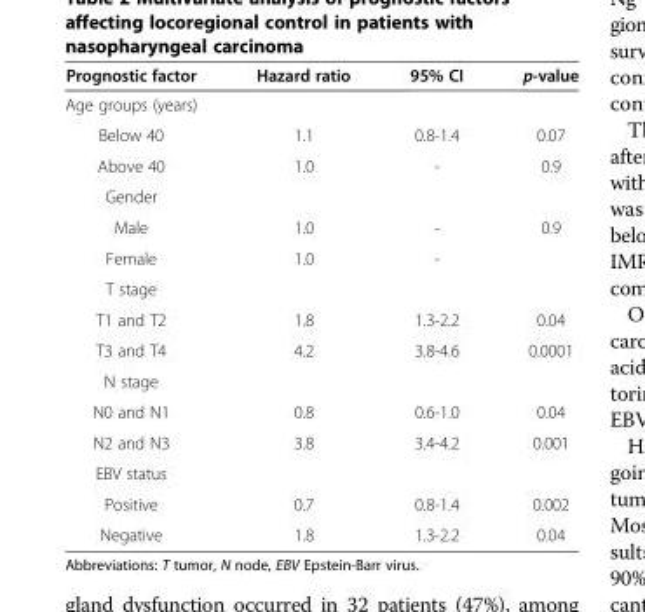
<table><thead><tr><td>Prognostic factor</td><td>Hazard ratio</td><td>95% CI</td><td>p-value</td></tr></thead><tbody><tr><td colspan="4">Age groups (years)</td></tr><tr><td>Below 40</td><td>1.1</td><td>0.8-1.4</td><td>0.07</td></tr><tr><td>Above 40</td><td>1.0</td><td>-</td><td>0.9</td></tr><tr><td colspan="4">Gender</td></tr><tr><td>Male</td><td>1.0</td><td>-</td><td>0.9</td></tr><tr><td>Female</td><td>1.0</td><td>-</td><td></td></tr><tr><td colspan="4">T stage</td></tr><tr><td>T1 and T2</td><td>1.8</td><td>1.3-2.2</td><td>0.04</td></tr><tr><td>T3 and T4</td><td>4.2</td><td>3.8-4.6</td><td>0.0001</td></tr><tr><td colspan="4">N stage</td></tr><tr><td>N0 and N1</td><td>0.8</td><td>0.6-1.0</td><td>0.04</td></tr><tr><td>N2 and N3</td><td>3.8</td><td>3.4-4.2</td><td>0.001</td></tr><tr><td colspan="4">EBV status</td></tr><tr><td>Positive</td><td>0.7</td><td>0.8-1.4</td><td>0.002</td></tr><tr><td>Negative</td><td>1.8</td><td>1.3-2.2</td><td>0.04</td></tr></tbody></table>